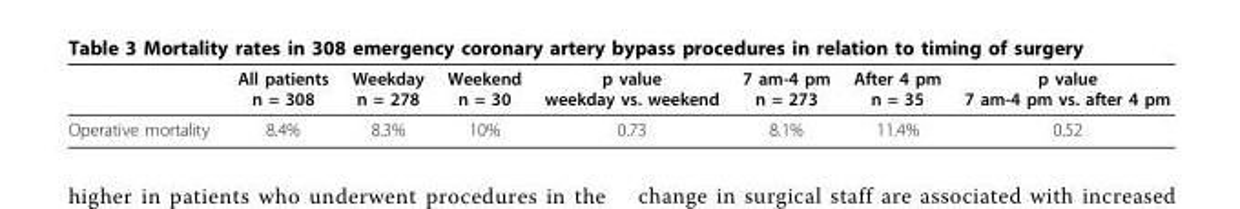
<table><thead><tr><td></td><td>All patients n = 308</td><td>Weekday n = 278</td><td>Weekend n = 30</td><td>p value weekday vs. weekend</td><td>7 am-4 pm n = 273</td><td>After 4 pm n = 35</td><td>p value 7 am-4 pm vs. after 4 pm</td></tr></thead><tbody><tr><td>Operative mortality</td><td>8.4%</td><td>8.3%</td><td>10%</td><td>0.73</td><td>8.1%</td><td>11.4%</td><td>0.52</td></tr></tbody></table>